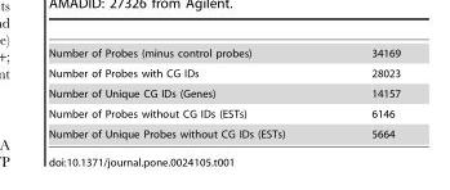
<table><tbody><tr><td>Number of Probes (minus control probes)</td><td>34169</td></tr><tr><td>Number of Probes with CG IDs</td><td>28023</td></tr><tr><td>Number of Unique CG IDs (Genes)</td><td>14157</td></tr><tr><td>Number of Probes without CG IDs (ESTs)</td><td>6146</td></tr><tr><td>Number of Unique Probes without CG IDs (ESTs)</td><td>5664</td></tr></tbody></table>